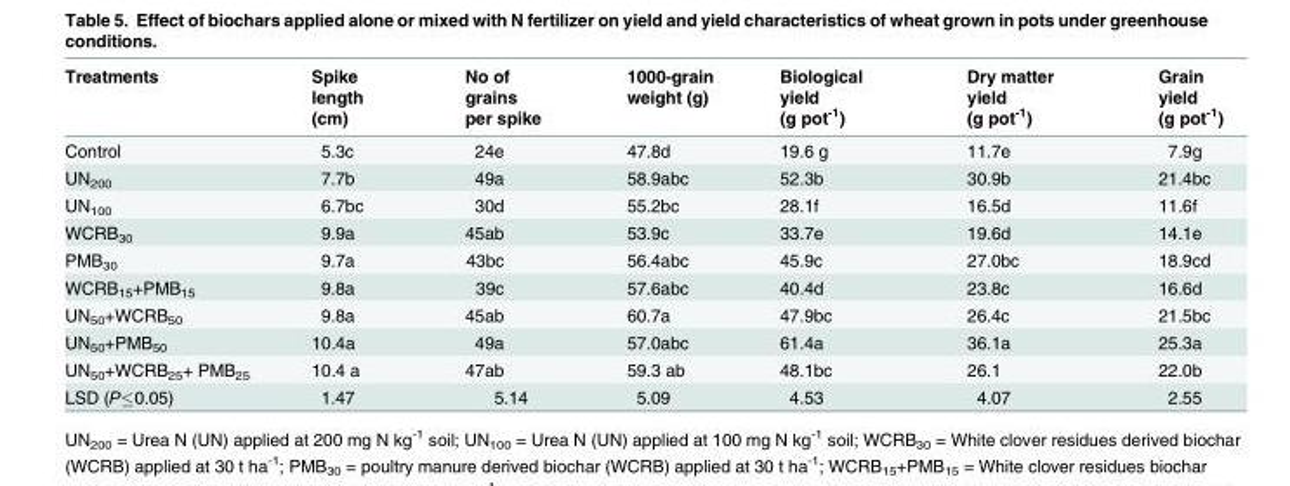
<table><thead><tr><td>Treatments</td><td>Spike length (cm)</td><td>No of grains per spike</td><td>1000-grain weight (g)</td><td>Biological yield (g pot<sup>-1</sup>)</td><td>Dry matter yield (g pot<sup>-1</sup>)</td><td>Grain yield (g pot<sup>-1</sup>)</td></tr></thead><tbody><tr><td>Control</td><td>5.3c</td><td>24e</td><td>47.8d</td><td>19.6 g</td><td>11.7e</td><td>7.9g</td></tr><tr><td>UN<sub>200</sub></td><td>7.7b</td><td>49a</td><td>58.9abc</td><td>52.3b</td><td>30.9b</td><td>21.4bc</td></tr><tr><td>UN<sub>100</sub></td><td>6.7bc</td><td>30d</td><td>55.2bc</td><td>28.1f</td><td>16.5d</td><td>11.6f</td></tr><tr><td>WCRB<sub>30</sub></td><td>9.9a</td><td>45ab</td><td>53.9c</td><td>33.7e</td><td>19.6d</td><td>14.1e</td></tr><tr><td>PMB<sub>30</sub></td><td>9.7a</td><td>43bc</td><td>56.4abc</td><td>45.9c</td><td>27.0bc</td><td>18.9cd</td></tr><tr><td>WCRB<sub>15</sub>+PMB<sub>15</sub></td><td>9.8a</td><td>39c</td><td>57.6abc</td><td>40.4d</td><td>23.8c</td><td>16.6d</td></tr><tr><td>UN<sub>50</sub>+WCRB<sub>50</sub></td><td>9.8a</td><td>45ab</td><td>60.7a</td><td>47.9bc</td><td>26.4c</td><td>21.5bc</td></tr><tr><td>UN<sub>50</sub>+PMB<sub>50</sub></td><td>10.4a</td><td>49a</td><td>57.0abc</td><td>61.4a</td><td>36.1a</td><td>25.3a</td></tr><tr><td>UN<sub>50</sub>+WCRB<sub>25</sub>+ PMB<sub>25</sub></td><td>10.4 a</td><td>47ab</td><td>59.3 ab</td><td>48.1bc</td><td>26.1</td><td>22.0b</td></tr><tr><td>LSD (P≤0.05)</td><td>1.47</td><td>5.14</td><td>5.09</td><td>4.53</td><td>4.07</td><td>2.55</td></tr></tbody></table>